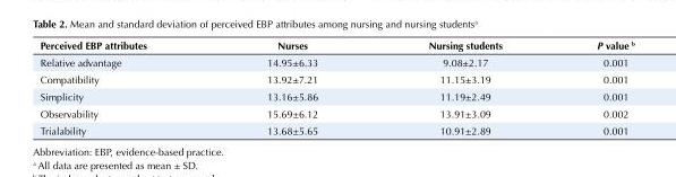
<table><tbody><tr><td>Perceived EBP attributes</td><td>Nurses</td><td>Nursing students</td><td>P value <sup>b</sup></td></tr><tr><td>Relative advantage</td><td>14.95±6.33</td><td>9.08±2.17</td><td>0.001</td></tr><tr><td>Compatibility</td><td>13.92±7.21</td><td>11.15±3.19</td><td>0.001</td></tr><tr><td>Simplicity</td><td>13.16±5.86</td><td>11.19±2.49</td><td>0.001</td></tr><tr><td>Observability</td><td>15.69±6.12</td><td>13.91±3.09</td><td>0.002</td></tr><tr><td>Trialability</td><td>13.68±5.65</td><td>10.91±2.89</td><td>0.001</td></tr></tbody></table>